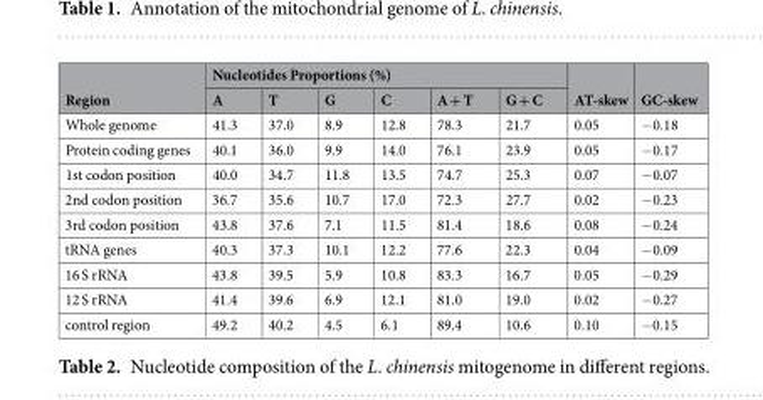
<table><thead><tr><td rowspan="2">Region</td><td colspan="6">Nucleotides Proportions (%)</td><td rowspan="2">AT-skew</td><td rowspan="2">GC-skew</td></tr><tr><td>A</td><td>T</td><td>G</td><td>C</td><td>A + T</td><td>G + C</td></tr></thead><tbody><tr><td>Whole genome</td><td>41.3</td><td>37.0</td><td>8.9</td><td>12.8</td><td>78.3</td><td>21.7</td><td>0.05</td><td>−0.18</td></tr><tr><td>Protein coding genes</td><td>40.1</td><td>36.0</td><td>9.9</td><td>14.0</td><td>76.1</td><td>23.9</td><td>0.05</td><td>−0.17</td></tr><tr><td>1st codon position</td><td>40.0</td><td>34.7</td><td>11.8</td><td>13.5</td><td>74.7</td><td>25.3</td><td>0.07</td><td>−0.07</td></tr><tr><td>2nd codon position</td><td>36.7</td><td>35.6</td><td>10.7</td><td>17.0</td><td>72.3</td><td>27.7</td><td>0.02</td><td>−0.23</td></tr><tr><td>3rd codon position</td><td>43.8</td><td>37.6</td><td>7.1</td><td>11.5</td><td>81.4</td><td>18.6</td><td>0.08</td><td>−0.24</td></tr><tr><td>tRNA genes</td><td>40.3</td><td>37.3</td><td>10.1</td><td>12.2</td><td>77.6</td><td>22.3</td><td>0.04</td><td>−0.09</td></tr><tr><td>16 S rRNA</td><td>43.8</td><td>39.5</td><td>5.9</td><td>10.8</td><td>83.3</td><td>16.7</td><td>0.05</td><td>−0.29</td></tr><tr><td>12 S rRNA</td><td>41.4</td><td>39.6</td><td>6.9</td><td>12.1</td><td>81.0</td><td>19.0</td><td>0.02</td><td>−0.27</td></tr><tr><td>control region</td><td>49.2</td><td>40.2</td><td>4.5</td><td>6.1</td><td>89.4</td><td>10.6</td><td>0.10</td><td>−0.15</td></tr></tbody></table>